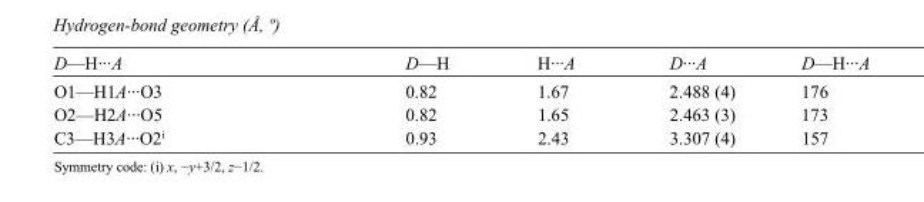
<table><tbody><tr><td>D—H···A</td><td>D—H</td><td>H···A</td><td>D···A</td><td>D—H···A</td></tr><tr><td>O1—H1A···O3</td><td>0.82</td><td>1.67</td><td>2.488 (4)</td><td>176</td></tr><tr><td>O2—H2A···O5</td><td>0.82</td><td>1.65</td><td>2.463 (3)</td><td>173</td></tr><tr><td>C3—H3A···O2<sup>i</sup></td><td>0.93</td><td>2.43</td><td>3.307 (4)</td><td>157</td></tr></tbody></table>